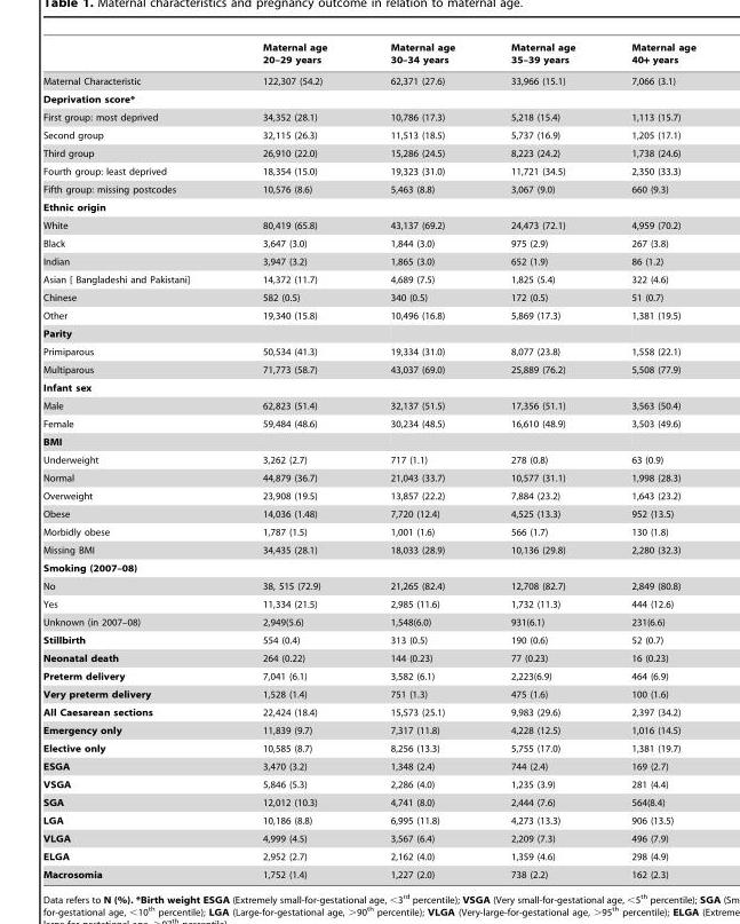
<table><thead><tr><td></td><td>Maternal age 20–29 years</td><td>Maternal age 30–34 years</td><td>Maternal age 35–39 years</td><td>Maternal age 40+ years</td></tr></thead><tbody><tr><td>Maternal Characteristic</td><td>122,307 (54.2)</td><td>62,371 (27.6)</td><td>33,966 (15.1)</td><td>7,066 (3.1)</td></tr><tr><td colspan="5">Deprivation score*</td></tr><tr><td>First group: most deprived</td><td>34,352 (28.1)</td><td>10,786 (17.3)</td><td>5,218 (15.4)</td><td>1,113 (15.7)</td></tr><tr><td>Second group</td><td>32,115 (26.3)</td><td>11,513 (18.5)</td><td>5,737 (16.9)</td><td>1,205 (17.1)</td></tr><tr><td>Third group</td><td>26,910 (22.0)</td><td>15,286 (24.5)</td><td>8,223 (24.2)</td><td>1,738 (24.6)</td></tr><tr><td>Fourth group: least deprived</td><td>18,354 (15.0)</td><td>19,323 (31.0)</td><td>11,721 (34.5)</td><td>2,350 (33.3)</td></tr><tr><td>Fifth group: missing postcodes</td><td>10,576 (8.6)</td><td>5,463 (8.8)</td><td>3,067 (9.0)</td><td>660 (9.3)</td></tr><tr><td colspan="5">Ethnic origin</td></tr><tr><td>White</td><td>80,419 (65.8)</td><td>43,137 (69.2)</td><td>24,473 (72.1)</td><td>4,959 (70.2)</td></tr><tr><td>Black</td><td>3,647 (3.0)</td><td>1,844 (3.0)</td><td>975 (2.9)</td><td>267 (3.8)</td></tr><tr><td>Indian</td><td>3,947 (3.2)</td><td>1,865 (3.0)</td><td>652 (1.9)</td><td>86 (1.2)</td></tr><tr><td>Asian [ Bangladeshi and Pakistani]</td><td>14,372 (11.7)</td><td>4,689 (7.5)</td><td>1,825 (5.4)</td><td>322 (4.6)</td></tr><tr><td>Chinese</td><td>582 (0.5)</td><td>340 (0.5)</td><td>172 (0.5)</td><td>51 (0.7)</td></tr><tr><td>Other</td><td>19,340 (15.8)</td><td>10,496 (16.8)</td><td>5,869 (17.3)</td><td>1,381 (19.5)</td></tr><tr><td colspan="5">Parity</td></tr><tr><td>Primiparous</td><td>50,534 (41.3)</td><td>19,334 (31.0)</td><td>8,077 (23.8)</td><td>1,558 (22.1)</td></tr><tr><td>Multiparous</td><td>71,773 (58.7)</td><td>43,037 (69.0)</td><td>25,889 (76.2)</td><td>5,508 (77.9)</td></tr><tr><td colspan="5">Infant sex</td></tr><tr><td>Male</td><td>62,823 (51.4)</td><td>32,137 (51.5)</td><td>17,356 (51.1)</td><td>3,563 (50.4)</td></tr><tr><td>Female</td><td>59,484 (48.6)</td><td>30,234 (48.5)</td><td>16,610 (48.9)</td><td>3,503 (49.6)</td></tr><tr><td colspan="5">BMI</td></tr><tr><td>Underweight</td><td>3,262 (2.7)</td><td>717 (1.1)</td><td>278 (0.8)</td><td>63 (0.9)</td></tr><tr><td>Normal</td><td>44,879 (36.7)</td><td>21,043 (33.7)</td><td>10,577 (31.1)</td><td>1,998 (28.3)</td></tr><tr><td>Overweight</td><td>23,908 (19.5)</td><td>13,857 (22.2)</td><td>7,884 (23.2)</td><td>1,643 (23.2)</td></tr><tr><td>Obese</td><td>14,036 (1.48)</td><td>7,720 (12.4)</td><td>4,525 (13.3)</td><td>952 (13.5)</td></tr><tr><td>Morbidly obese</td><td>1,787 (1.5)</td><td>1,001 (1.6)</td><td>566 (1.7)</td><td>130 (1.8)</td></tr><tr><td>Missing BMI</td><td>34,435 (28.1)</td><td>18,033 (28.9)</td><td>10,136 (29.8)</td><td>2,280 (32.3)</td></tr><tr><td colspan="5">Smoking (2007–08)</td></tr><tr><td>No</td><td>38, 515 (72.9)</td><td>21,265 (82.4)</td><td>12,708 (82.7)</td><td>2,849 (80.8)</td></tr><tr><td>Yes</td><td>11,334 (21.5)</td><td>2,985 (11.6)</td><td>1,732 (11.3)</td><td>444 (12.6)</td></tr><tr><td>Unknown (in 2007–08)</td><td>2,949(5.6)</td><td>1,548(6.0)</td><td>931(6.1)</td><td>231(6.6)</td></tr><tr><td>Stillbirth</td><td>554 (0.4)</td><td>313 (0.5)</td><td>190 (0.6)</td><td>52 (0.7)</td></tr><tr><td>Neonatal death</td><td>264 (0.22)</td><td>144 (0.23)</td><td>77 (0.23)</td><td>16 (0.23)</td></tr><tr><td>Preterm delivery</td><td>7,041 (6.1)</td><td>3,582 (6.1)</td><td>2,223(6.9)</td><td>464 (6.9)</td></tr><tr><td>Very preterm delivery</td><td>1,528 (1.4)</td><td>751 (1.3)</td><td>475 (1.6)</td><td>100 (1.6)</td></tr><tr><td>All Caesarean sections</td><td>22,424 (18.4)</td><td>15,573 (25.1)</td><td>9,983 (29.6)</td><td>2,397 (34.2)</td></tr><tr><td>Emergency only</td><td>11,839 (9.7)</td><td>7,317 (11.8)</td><td>4,228 (12.5)</td><td>1,016 (14.5)</td></tr><tr><td>Elective only</td><td>10,585 (8.7)</td><td>8,256 (13.3)</td><td>5,755 (17.0)</td><td>1,381 (19.7)</td></tr><tr><td>ESGA</td><td>3,470 (3.2)</td><td>1,348 (2.4)</td><td>744 (2.4)</td><td>169 (2.7)</td></tr><tr><td>VSGA</td><td>5,846 (5.3)</td><td>2,286 (4.0)</td><td>1,235 (3.9)</td><td>281 (4.4)</td></tr><tr><td>SGA</td><td>12,012 (10.3)</td><td>4,741 (8.0)</td><td>2,444 (7.6)</td><td>564(8.4)</td></tr><tr><td>LGA</td><td>10,186 (8.8)</td><td>6,995 (11.8)</td><td>4,273 (13.3)</td><td>906 (13.5)</td></tr><tr><td>VLGA</td><td>4,999 (4.5)</td><td>3,567 (6.4)</td><td>2,209 (7.3)</td><td>496 (7.9)</td></tr><tr><td>ELGA</td><td>2,952 (2.7)</td><td>2,162 (4.0)</td><td>1,359 (4.6)</td><td>298 (4.9)</td></tr><tr><td>Macrosomia</td><td>1,752 (1.4)</td><td>1,227 (2.0)</td><td>738 (2.2)</td><td>162 (2.3)</td></tr></tbody></table>